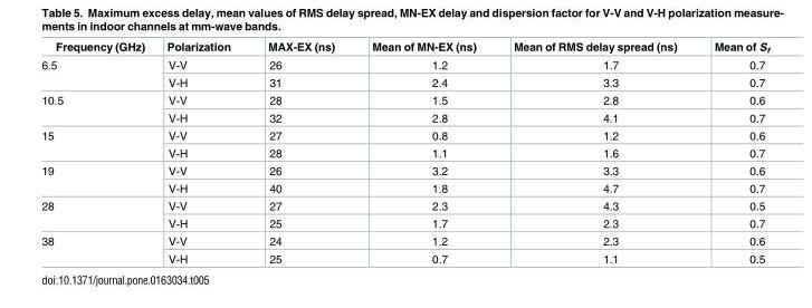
<table><thead><tr><td>Frequency (GHz)</td><td>Polarization</td><td>MAX-EX (ns)</td><td>Mean of MN-EX (ns)</td><td>Mean of RMS delay spread (ns)</td><td>Mean of S<sub>f</sub></td></tr></thead><tbody><tr><td rowspan="2">6.5</td><td>V-V</td><td>26</td><td>1.2</td><td>1.7</td><td>0.7</td></tr><tr><td>V-H</td><td>31</td><td>2.4</td><td>3.3</td><td>0.7</td></tr><tr><td rowspan="2">10.5</td><td>V-V</td><td>28</td><td>1.5</td><td>2.8</td><td>0.6</td></tr><tr><td>V-H</td><td>32</td><td>2.8</td><td>4.1</td><td>0.7</td></tr><tr><td rowspan="2">15</td><td>V-V</td><td>27</td><td>0.8</td><td>1.2</td><td>0.6</td></tr><tr><td>V-H</td><td>28</td><td>1.1</td><td>1.6</td><td>0.7</td></tr><tr><td rowspan="2">19</td><td>V-V</td><td>26</td><td>3.2</td><td>3.3</td><td>0.6</td></tr><tr><td>V-H</td><td>40</td><td>1.8</td><td>4.7</td><td>0.7</td></tr><tr><td rowspan="2">28</td><td>V-V</td><td>27</td><td>2.3</td><td>4.3</td><td>0.5</td></tr><tr><td>V-H</td><td>25</td><td>1.7</td><td>2.3</td><td>0.7</td></tr><tr><td rowspan="2">38</td><td>V-V</td><td>24</td><td>1.2</td><td>2.3</td><td>0.6</td></tr><tr><td>V-H</td><td>25</td><td>0.7</td><td>1.1</td><td>0.5</td></tr></tbody></table>